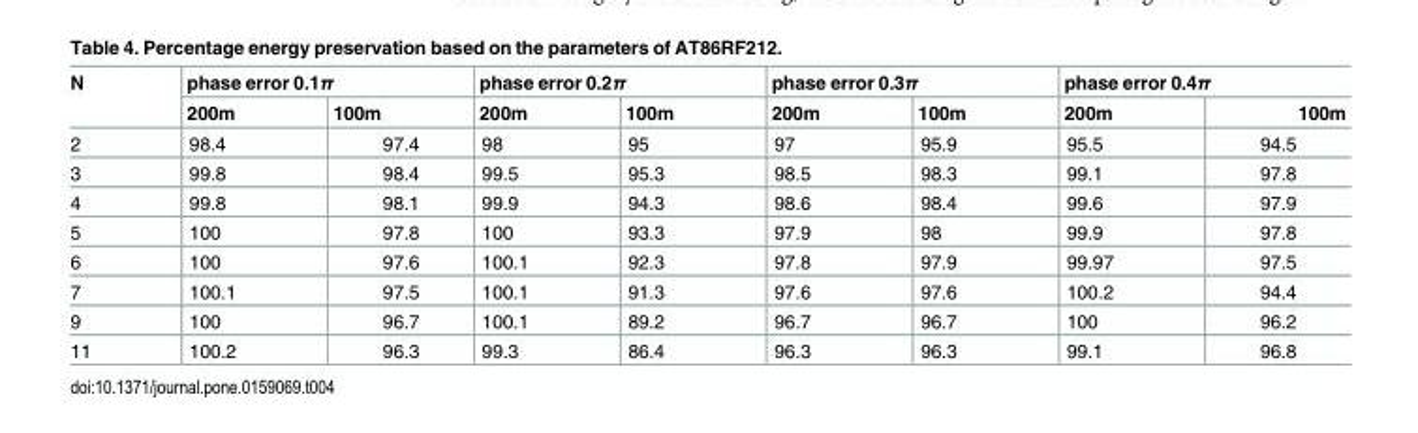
<table><thead><tr><td rowspan="2">N</td><td colspan="2">phase error 0.1π</td><td colspan="2">phase error 0.2π</td><td colspan="2">phase error 0.3π</td><td colspan="2">phase error 0.4π</td></tr><tr><td>200m</td><td>100m</td><td>200m</td><td>100m</td><td>200m</td><td>100m</td><td>200m</td><td>100m</td></tr></thead><tbody><tr><td>2</td><td>98.4</td><td>97.4</td><td>98</td><td>95</td><td>97</td><td>95.9</td><td>95.5</td><td>94.5</td></tr><tr><td>3</td><td>99.8</td><td>98.4</td><td>99.5</td><td>95.3</td><td>98.5</td><td>98.3</td><td>99.1</td><td>97.8</td></tr><tr><td>4</td><td>99.8</td><td>98.1</td><td>99.9</td><td>94.3</td><td>98.6</td><td>98.4</td><td>99.6</td><td>97.9</td></tr><tr><td>5</td><td>100</td><td>97.8</td><td>100</td><td>93.3</td><td>97.9</td><td>98</td><td>99.9</td><td>97.8</td></tr><tr><td>6</td><td>100</td><td>97.6</td><td>100.1</td><td>92.3</td><td>97.8</td><td>97.9</td><td>99.97</td><td>97.5</td></tr><tr><td>7</td><td>100.1</td><td>97.5</td><td>100.1</td><td>91.3</td><td>97.6</td><td>97.6</td><td>100.2</td><td>94.4</td></tr><tr><td>9</td><td>100</td><td>96.7</td><td>100.1</td><td>89.2</td><td>96.7</td><td>96.7</td><td>100</td><td>96.2</td></tr><tr><td>11</td><td>100.2</td><td>96.3</td><td>99.3</td><td>86.4</td><td>96.3</td><td>96.3</td><td>99.1</td><td>96.8</td></tr></tbody></table>